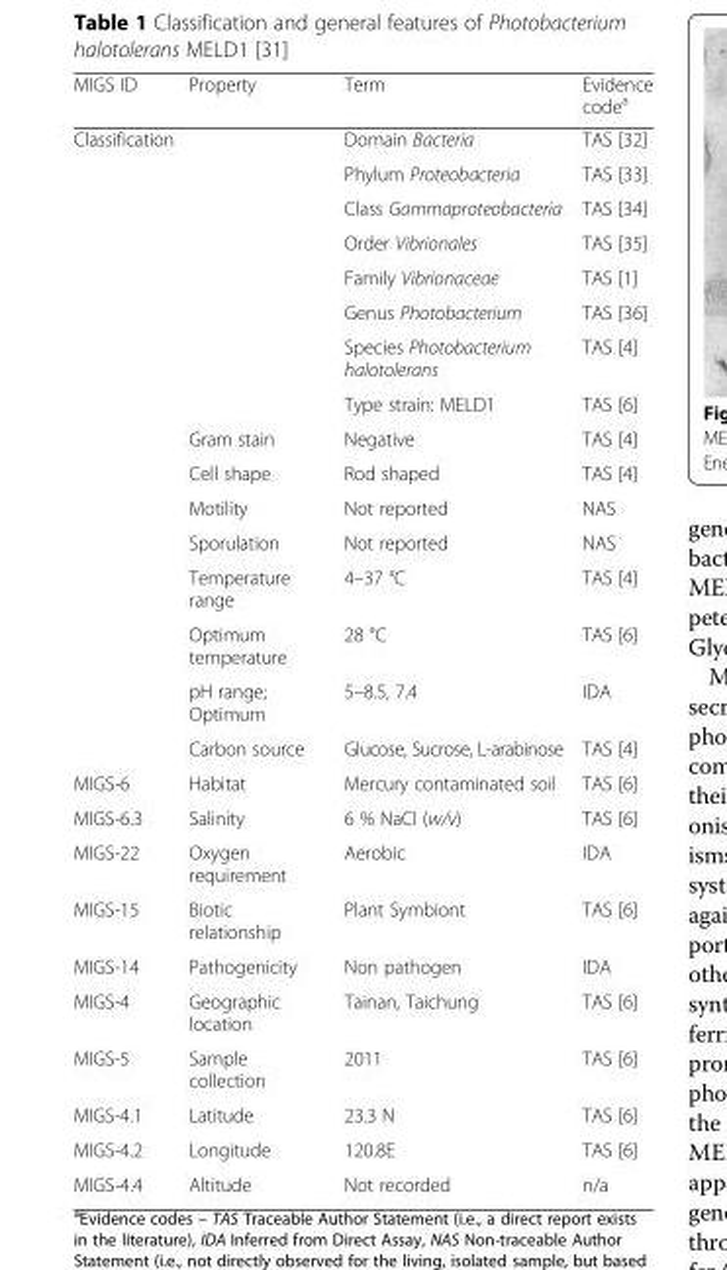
<table><thead><tr><td>MIGS ID</td><td>Property</td><td>Term</td><td>Evidence code<sup>a</sup></td></tr></thead><tbody><tr><td rowspan="16">Classification</td><td rowspan="8"></td><td>Domain Bacteria</td><td>TAS [32]</td></tr><tr><td>Phylum Proteobacteria</td><td>TAS [33]</td></tr><tr><td>Class Gammaproteobacteria</td><td>TAS [34]</td></tr><tr><td>Order Vibrionales</td><td>TAS [35]</td></tr><tr><td>Family Vibrionaceae</td><td>TAS [1]</td></tr><tr><td>Genus Photobacterium</td><td>TAS [36]</td></tr><tr><td>Species Photobacterium halotolerans</td><td>TAS [4]</td></tr><tr><td>Type strain: MELD1</td><td>TAS [6]</td></tr><tr><td>Gram stain</td><td>Negative</td><td>TAS [4]</td></tr><tr><td>Cell shape</td><td>Rod shaped</td><td>TAS [4]</td></tr><tr><td>Motility</td><td>Not reported</td><td>NAS</td></tr><tr><td>Sporulation</td><td>Not reported</td><td>NAS</td></tr><tr><td>Temperature range</td><td>4–37 °C</td><td>TAS [4]</td></tr><tr><td>Optimum temperature</td><td>28 °C</td><td>TAS [6]</td></tr><tr><td>pH range; Optimum</td><td>5–8.5, 7.4</td><td>IDA</td></tr><tr><td>Carbon source</td><td>Glucose, Sucrose, L-arabinose</td><td>TAS [4]</td></tr><tr><td>MIGS-6</td><td>Habitat</td><td>Mercury contaminated soil</td><td>TAS [6]</td></tr><tr><td>MIGS-6.3</td><td>Salinity</td><td>6 % NaCl (w/v)</td><td>TAS [6]</td></tr><tr><td>MIGS-22</td><td>Oxygen requirement</td><td>Aerobic</td><td>IDA</td></tr><tr><td>MIGS-15</td><td>Biotic relationship</td><td>Plant Symbiont</td><td>TAS [6]</td></tr><tr><td>MIGS-14</td><td>Pathogenicity</td><td>Non pathogen</td><td>IDA</td></tr><tr><td>MIGS-4</td><td>Geographic location</td><td>Tainan, Taichung</td><td>TAS [6]</td></tr><tr><td>MIGS-5</td><td>Sample collection</td><td>2011</td><td>TAS [6]</td></tr><tr><td>MIGS-4.1</td><td>Latitude</td><td>23.3 N</td><td>TAS [6]</td></tr><tr><td>MIGS-4.2</td><td>Longitude</td><td>120.8E</td><td>TAS [6]</td></tr><tr><td>MIGS-4.4</td><td>Altitude</td><td>Not recorded</td><td>n/a</td></tr></tbody></table>